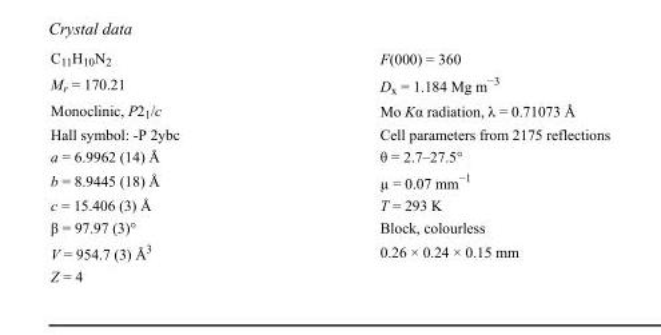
<table><tbody><tr><td>C<sub>11</sub>H<sub>10</sub>N<sub>2</sub></td><td>F(000) = 360</td></tr><tr><td>M<sub>r</sub> = 170.21</td><td>D<sub>x</sub> = 1.184 Mg m<sup>−3</sup></td></tr><tr><td>Monoclinic, P2<sub>1</sub>/c</td><td>Mo Kα radiation, λ = 0.71073 Å</td></tr><tr><td>Hall symbol: -P 2ybc</td><td>Cell parameters from 2175 reflections</td></tr><tr><td>a = 6.9962 (14) Å</td><td>θ = 2.7–27.5°</td></tr><tr><td>b = 8.9445 (18) Å</td><td>µ = 0.07 mm<sup>−1</sup></td></tr><tr><td>c = 15.406 (3) Å</td><td>T = 293 K</td></tr><tr><td>β = 97.97 (3)°</td><td>Block, colourless</td></tr><tr><td>V = 954.7 (3) Å<sup>3</sup></td><td>0.26 × 0.24 × 0.15 mm</td></tr><tr><td>Z = 4</td><td></td></tr></tbody></table>